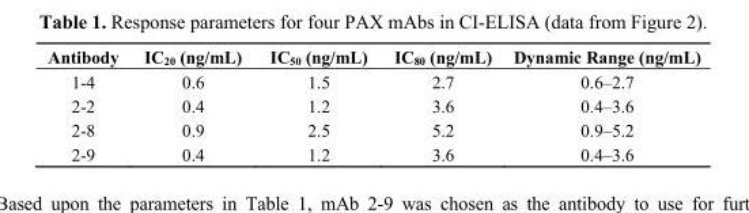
<table><thead><tr><td>Antibody</td><td>IC<sub>20</sub> (ng/mL)</td><td>IC<sub>50</sub> (ng/mL)</td><td>IC<sub>80</sub> (ng/mL)</td><td>Dynamic Range (ng/mL)</td></tr></thead><tbody><tr><td>1-4</td><td>0.6</td><td>1.5</td><td>2.7</td><td>0.6–2.7</td></tr><tr><td>2-2</td><td>0.4</td><td>1.2</td><td>3.6</td><td>0.4–3.6</td></tr><tr><td>2-8</td><td>0.9</td><td>2.5</td><td>5.2</td><td>0.9–5.2</td></tr><tr><td>2-9</td><td>0.4</td><td>1.2</td><td>3.6</td><td>0.4–3.6</td></tr></tbody></table>